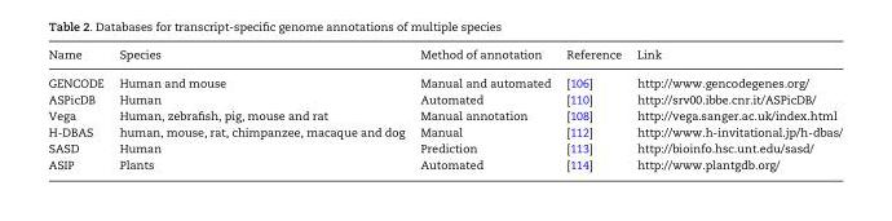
<table><thead><tr><td>Name</td><td>Species</td><td>Method of annotation</td><td>Reference</td><td>Link</td></tr></thead><tbody><tr><td>GENCODE</td><td>Human and mouse</td><td>Manual and automated</td><td>[106]</td><td>http://www.gencodegenes.org/</td></tr><tr><td>ASPicDB</td><td>Human</td><td>Automated</td><td>[110]</td><td>http://srv00.ibbe.cnr.it/ASPicDB/</td></tr><tr><td>Vega</td><td>Human, zebrafish, pig, mouse and rat</td><td>Manual annotation</td><td>[108]</td><td>http://vega.sanger.ac.uk/index.html</td></tr><tr><td>H-DBAS</td><td>human, mouse, rat, chimpanzee, macaque and dog</td><td>Manual</td><td>[112]</td><td>http://www.h-invitational.jp/h-dbas/</td></tr><tr><td>SASD</td><td>Human</td><td>Prediction</td><td>[113]</td><td>http://bioinfo.hsc.unt.edu/sasd/</td></tr><tr><td>ASIP</td><td>Plants</td><td>Automated</td><td>[114]</td><td>http://www.plantgdb.org/</td></tr></tbody></table>